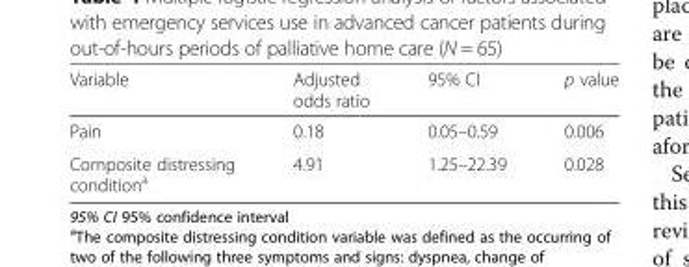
<table><thead><tr><td>Variable</td><td>Adjusted odds ratio</td><td>95% CI</td><td>p value</td></tr></thead><tbody><tr><td>Pain</td><td>0.18</td><td>0.05–0.59</td><td>0.006</td></tr><tr><td>Composite distressing condition<sup>a</sup></td><td>4.91</td><td>1.25–22.39</td><td>0.028</td></tr></tbody></table>